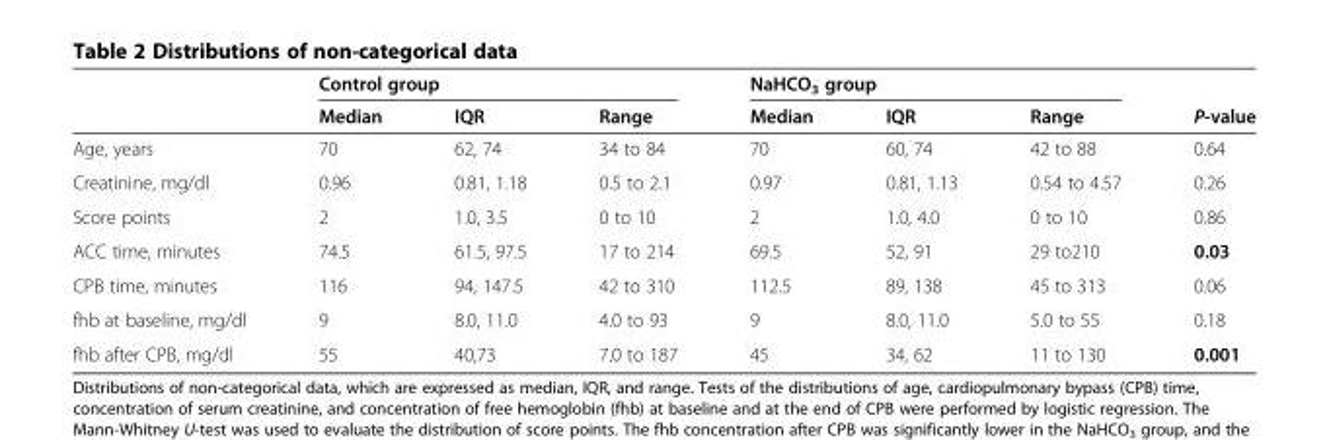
<table><thead><tr><td rowspan="2"></td><td colspan="3">Control group</td><td colspan="3">NaHCO<sub>3</sub> group</td><td rowspan="2">P-value</td></tr><tr><td>Median</td><td>IQR</td><td>Range</td><td>Median</td><td>IQR</td><td>Range</td></tr></thead><tbody><tr><td>Age, years</td><td>70</td><td>62, 74</td><td>34 to 84</td><td>70</td><td>60, 74</td><td>42 to 88</td><td>0.64</td></tr><tr><td>Creatinine, mg/dl</td><td>0.96</td><td>0.81, 1.18</td><td>0.5 to 2.1</td><td>0.97</td><td>0.81, 1.13</td><td>0.54 to 4.57</td><td>0.26</td></tr><tr><td>Score points</td><td>2</td><td>1.0, 3.5</td><td>0 to 10</td><td>2</td><td>1.0, 4.0</td><td>0 to 10</td><td>0.86</td></tr><tr><td>ACC time, minutes</td><td>74.5</td><td>61.5, 97.5</td><td>17 to 214</td><td>69.5</td><td>52, 91</td><td>29 to210</td><td>0.03</td></tr><tr><td>CPB time, minutes</td><td>116</td><td>94, 147.5</td><td>42 to 310</td><td>112.5</td><td>89, 138</td><td>45 to 313</td><td>0.06</td></tr><tr><td>fhb at baseline, mg/dl</td><td>9</td><td>8.0, 11.0</td><td>4.0 to 93</td><td>9</td><td>8.0, 11.0</td><td>5.0 to 55</td><td>0.18</td></tr><tr><td>fhb after CPB, mg/dl</td><td>55</td><td>40,73</td><td>7.0 to 187</td><td>45</td><td>34, 62</td><td>11 to 130</td><td>0.001</td></tr></tbody></table>